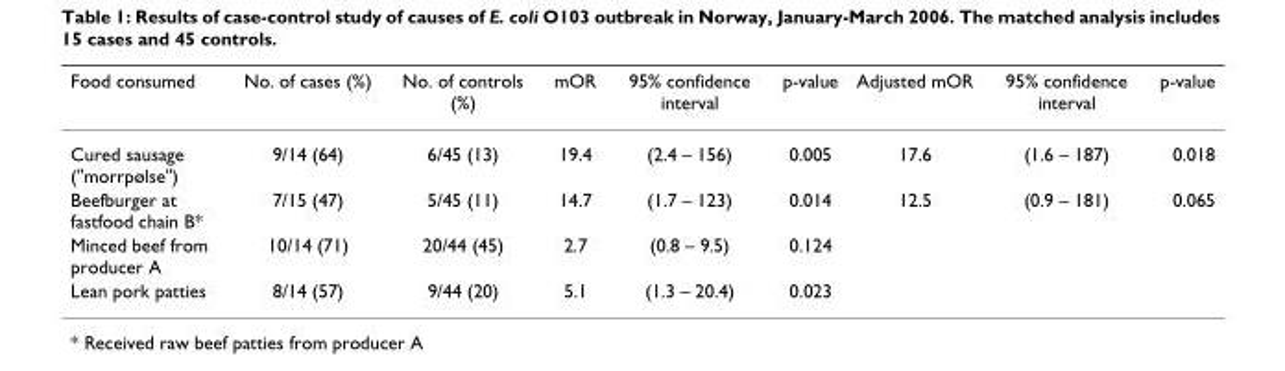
<table><thead><tr><td>Food consumed</td><td>No. of cases (%)</td><td>No. of controls (%)</td><td>mOR</td><td>95% confidence interval</td><td>p-value</td><td>Adjusted mOR</td><td>95% confidence interval</td><td>p-value</td></tr></thead><tbody><tr><td>Cured sausage (&quot;morrpølse&quot;)</td><td>9/14 (64)</td><td>6/45 (13)</td><td>19.4</td><td>(2.4 – 156)</td><td>0.005</td><td>17.6</td><td>(1.6 – 187)</td><td>0.018</td></tr><tr><td>Beefburger at fastfood chain B*</td><td>7/15 (47)</td><td>5/45 (11)</td><td>14.7</td><td>(1.7 – 123)</td><td>0.014</td><td>12.5</td><td>(0.9 – 181)</td><td>0.065</td></tr><tr><td>Minced beef from producer A</td><td>10/14 (71)</td><td>20/44 (45)</td><td>2.7</td><td>(0.8 – 9.5)</td><td>0.124</td><td></td><td></td><td></td></tr><tr><td>Lean pork patties</td><td>8/14 (57)</td><td>9/44 (20)</td><td>5.1</td><td>(1.3 – 20.4)</td><td>0.023</td><td></td><td></td><td></td></tr></tbody></table>